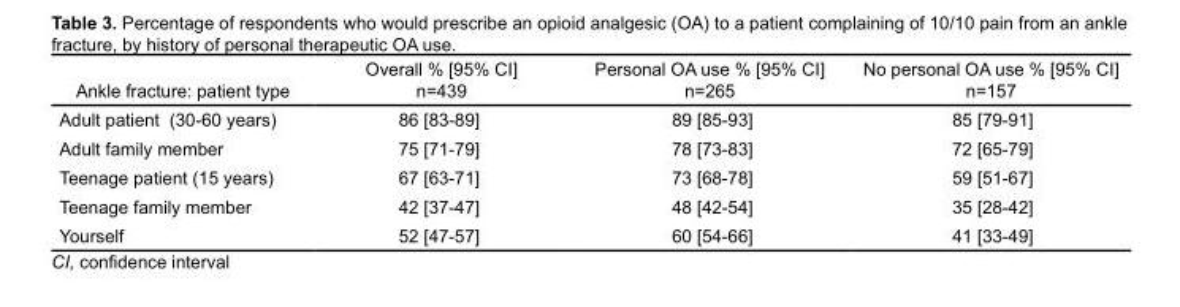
<table><thead><tr><td>Ankle fracture: patient type</td><td>Overall % [95% CI] n=439</td><td>Personal OA use % [95% CI] n=265</td><td>No personal OA use % [95% CI] n=157</td></tr></thead><tbody><tr><td>Adult patient (30-60 years)</td><td>86 [83-89]</td><td>89 [85-93]</td><td>85 [79-91]</td></tr><tr><td>Adult family member</td><td>75 [71-79]</td><td>78 [73-83]</td><td>72 [65-79]</td></tr><tr><td>Teenage patient (15 years)</td><td>67 [63-71]</td><td>73 [68-78]</td><td>59 [51-67]</td></tr><tr><td>Teenage family member</td><td>42 [37-47]</td><td>48 [42-54]</td><td>35 [28-42]</td></tr><tr><td>Yourself</td><td>52 [47-57]</td><td>60 [54-66]</td><td>41 [33-49]</td></tr></tbody></table>